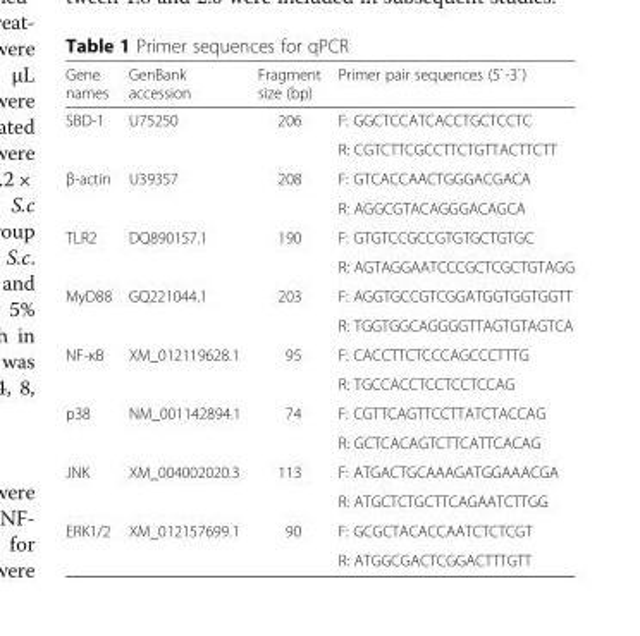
<table><thead><tr><td>Gene names</td><td>GenBank accession</td><td>Fragment size (bp)</td><td>Primer pair sequences (5`-3`)</td></tr></thead><tbody><tr><td rowspan="2">SBD-1</td><td rowspan="2">U75250</td><td rowspan="2">206</td><td>F: GGCTCCATCACCTGCTCCTC</td></tr><tr><td>R: CGTCTTCGCCTTCTGTTACTTCTT</td></tr><tr><td rowspan="2">β-actin</td><td rowspan="2">U39357</td><td rowspan="2">208</td><td>F: GTCACCAACTGGGACGACA</td></tr><tr><td>R: AGGCGTACAGGGACAGCA</td></tr><tr><td rowspan="2">TLR2</td><td rowspan="2">DQ890157.1</td><td rowspan="2">190</td><td>F: GTGTCCGCCGTGTGCTGTGC</td></tr><tr><td>R: AGTAGGAATCCCGCTCGCTGTAGG</td></tr><tr><td rowspan="2">MyD88</td><td rowspan="2">GQ221044.1</td><td rowspan="2">203</td><td>F: AGGTGCCGTCGGATGGTGGTGGTT</td></tr><tr><td>R: TGGTGGCAGGGGTTAGTGTAGTCA</td></tr><tr><td rowspan="2">NF-κB</td><td rowspan="2">XM_012119628.1</td><td rowspan="2">95</td><td>F: CACCTTCTCCCAGCCCTTTG</td></tr><tr><td>R: TGCCACCTCCTCCTCCAG</td></tr><tr><td rowspan="2">p38</td><td rowspan="2">NM_001142894.1</td><td rowspan="2">74</td><td>F: CGTTCAGTTCCTTATCTACCAG</td></tr><tr><td>R: GCTCACAGTCTTCATTCACAG</td></tr><tr><td rowspan="2">JNK</td><td rowspan="2">XM_004002020.3</td><td rowspan="2">113</td><td>F: ATGACTGCAAAGATGGAAACGA</td></tr><tr><td>R: ATGCTCTGCTTCAGAATCTTGG</td></tr><tr><td rowspan="2">ERK1/2</td><td rowspan="2">XM_012157699.1</td><td rowspan="2">90</td><td>F: GCGCTACACCAATCTCTCGT</td></tr><tr><td>R: ATGGCGACTCGGACTTTGTT</td></tr></tbody></table>